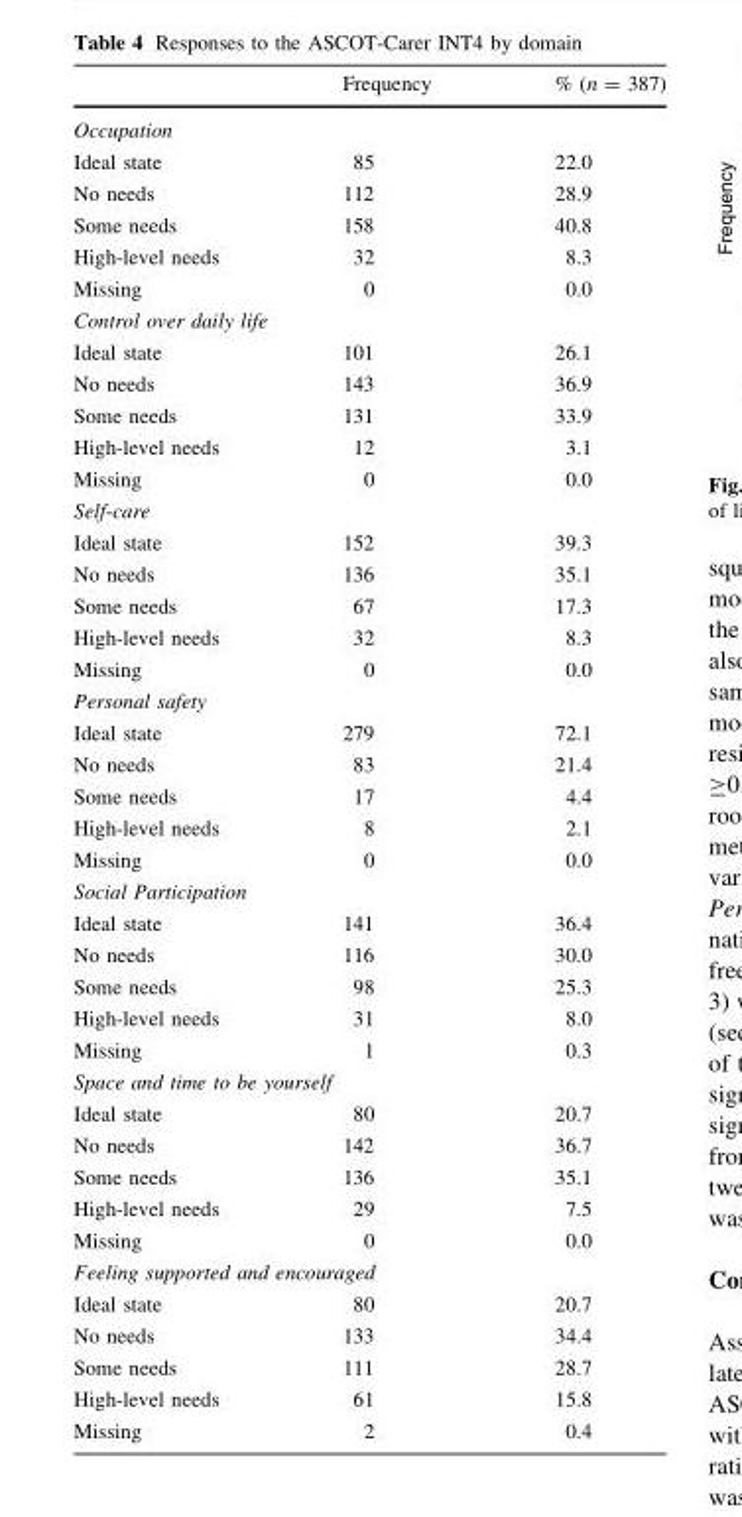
<table><thead><tr><td></td><td>Frequency</td><td>% (n = 387)</td></tr></thead><tbody><tr><td colspan="3">Occupation</td></tr><tr><td>Ideal state</td><td>85</td><td>22.0</td></tr><tr><td>No needs</td><td>112</td><td>28.9</td></tr><tr><td>Some needs</td><td>158</td><td>40.8</td></tr><tr><td>High-level needs</td><td>32</td><td>8.3</td></tr><tr><td>Missing</td><td>0</td><td>0.0</td></tr><tr><td colspan="3">Control over daily life</td></tr><tr><td>Ideal state</td><td>101</td><td>26.1</td></tr><tr><td>No needs</td><td>143</td><td>36.9</td></tr><tr><td>Some needs</td><td>131</td><td>33.9</td></tr><tr><td>High-level needs</td><td>12</td><td>3.1</td></tr><tr><td>Missing</td><td>0</td><td>0.0</td></tr><tr><td colspan="3">Self-care</td></tr><tr><td>Ideal state</td><td>152</td><td>39.3</td></tr><tr><td>No needs</td><td>136</td><td>35.1</td></tr><tr><td>Some needs</td><td>67</td><td>17.3</td></tr><tr><td>High-level needs</td><td>32</td><td>8.3</td></tr><tr><td>Missing</td><td>0</td><td>0.0</td></tr><tr><td colspan="3">Personal safety</td></tr><tr><td>Ideal state</td><td>279</td><td>72.1</td></tr><tr><td>No needs</td><td>83</td><td>21.4</td></tr><tr><td>Some needs</td><td>17</td><td>4.4</td></tr><tr><td>High-level needs</td><td>8</td><td>2.1</td></tr><tr><td>Missing</td><td>0</td><td>0.0</td></tr><tr><td colspan="3">Social Participation</td></tr><tr><td>Ideal state</td><td>141</td><td>36.4</td></tr><tr><td>No needs</td><td>116</td><td>30.0</td></tr><tr><td>Some needs</td><td>98</td><td>25.3</td></tr><tr><td>High-level needs</td><td>31</td><td>8.0</td></tr><tr><td>Missing</td><td>1</td><td>0.3</td></tr><tr><td colspan="3">Space and time to be yourself</td></tr><tr><td>Ideal state</td><td>80</td><td>20.7</td></tr><tr><td>No needs</td><td>142</td><td>36.7</td></tr><tr><td>Some needs</td><td>136</td><td>35.1</td></tr><tr><td>High-level needs</td><td>29</td><td>7.5</td></tr><tr><td>Missing</td><td>0</td><td>0.0</td></tr><tr><td colspan="3">Feeling supported and encouraged</td></tr><tr><td>Ideal state</td><td>80</td><td>20.7</td></tr><tr><td>No needs</td><td>133</td><td>34.4</td></tr><tr><td>Some needs</td><td>111</td><td>28.7</td></tr><tr><td>High-level needs</td><td>61</td><td>15.8</td></tr><tr><td>Missing</td><td>2</td><td>0.4</td></tr></tbody></table>